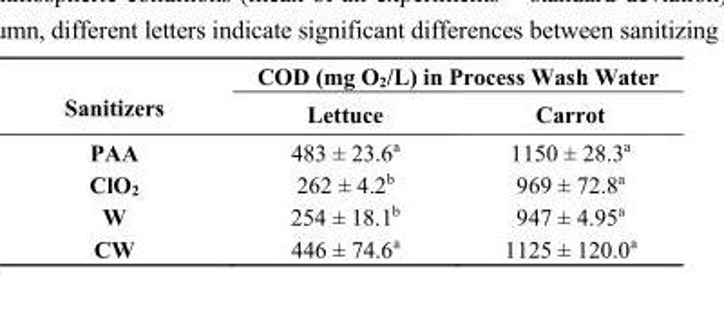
<table><thead><tr><td rowspan="2">Sanitizers</td><td colspan="2">COD (mg O<sub>2</sub>/L) in Process Wash Water</td></tr><tr><td>Lettuce</td><td>Carrot</td></tr></thead><tbody><tr><td>PAA</td><td>483 ± 23.6<sup>a</sup></td><td>1150 ± 28.3<sup>a</sup></td></tr><tr><td>ClO<sub>2</sub></td><td>262 ± 4.2<sup>b</sup></td><td>969 ± 72.8<sup>a</sup></td></tr><tr><td>W</td><td>254 ± 18.1<sup>b</sup></td><td>947 ± 4.95<sup>a</sup></td></tr><tr><td>CW</td><td>446 ± 74.6<sup>a</sup></td><td>1125 ± 120.0<sup>a</sup></td></tr></tbody></table>